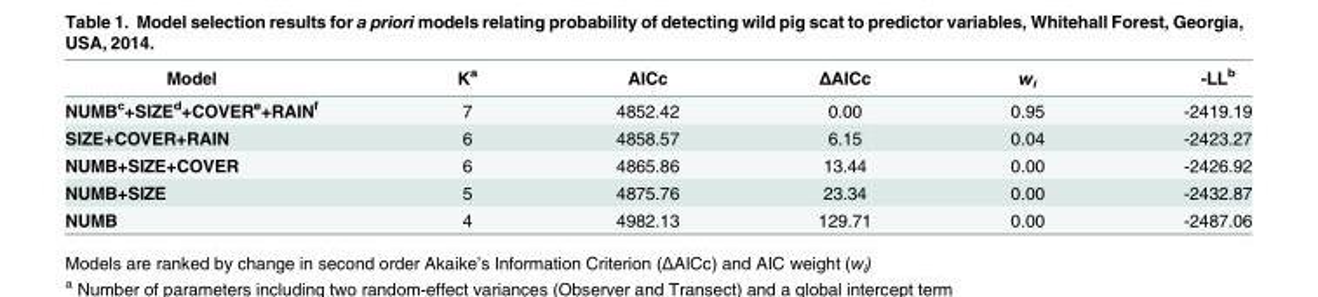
<table><thead><tr><td>Model</td><td>K<sup>a</sup></td><td>AICc</td><td>ΔAICc</td><td>w<sub>i</sub></td><td>-LL<sup>b</sup></td></tr></thead><tbody><tr><td>NUMB<sup>c</sup>+SIZE<sup>d</sup>+COVER<sup>e</sup>+RAIN<sup>f</sup></td><td>7</td><td>4852.42</td><td>0.00</td><td>0.95</td><td>-2419.19</td></tr><tr><td>SIZE+COVER+RAIN</td><td>6</td><td>4858.57</td><td>6.15</td><td>0.04</td><td>-2423.27</td></tr><tr><td>NUMB+SIZE+COVER</td><td>6</td><td>4865.86</td><td>13.44</td><td>0.00</td><td>-2426.92</td></tr><tr><td>NUMB+SIZE</td><td>5</td><td>4875.76</td><td>23.34</td><td>0.00</td><td>-2432.87</td></tr><tr><td>NUMB</td><td>4</td><td>4982.13</td><td>129.71</td><td>0.00</td><td>-2487.06</td></tr></tbody></table>